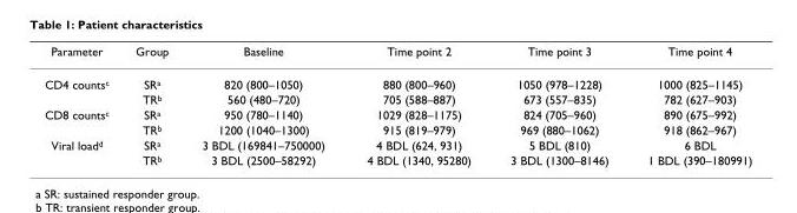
<table><thead><tr><td>Parameter</td><td>Group</td><td>Baseline</td><td>Time point 2</td><td>Time point 3</td><td>Time point 4</td></tr></thead><tbody><tr><td rowspan="2">CD4 counts<sup>c</sup></td><td>SR<sup>a</sup></td><td>820 (800–1050)</td><td>880 (800–960)</td><td>1050 (978–1228)</td><td>1000 (825–1145)</td></tr><tr><td>TR<sup>b</sup></td><td>560 (480–720)</td><td>705 (588–887)</td><td>673 (557–835)</td><td>782 (627–903)</td></tr><tr><td rowspan="2">CD8 counts<sup>c</sup></td><td>SR<sup>a</sup></td><td>950 (780–1140)</td><td>1029 (828–1175)</td><td>824 (705–960)</td><td>890 (675–992)</td></tr><tr><td>TR<sup>b</sup></td><td>1200 (1040–1300)</td><td>915 (819–979)</td><td>969 (880–1062)</td><td>918 (862–967)</td></tr><tr><td rowspan="2">Viral load<sup>d</sup></td><td>SR<sup>a</sup></td><td>3 BDL (169841–750000)</td><td>4 BDL (624, 931)</td><td>5 BDL (810)</td><td>6 BDL</td></tr><tr><td>TR<sup>b</sup></td><td>3 BDL (2500–58292)</td><td>4 BDL (1340, 95280)</td><td>3 BDL (1300–8146)</td><td>1 BDL (390–180991)</td></tr></tbody></table>